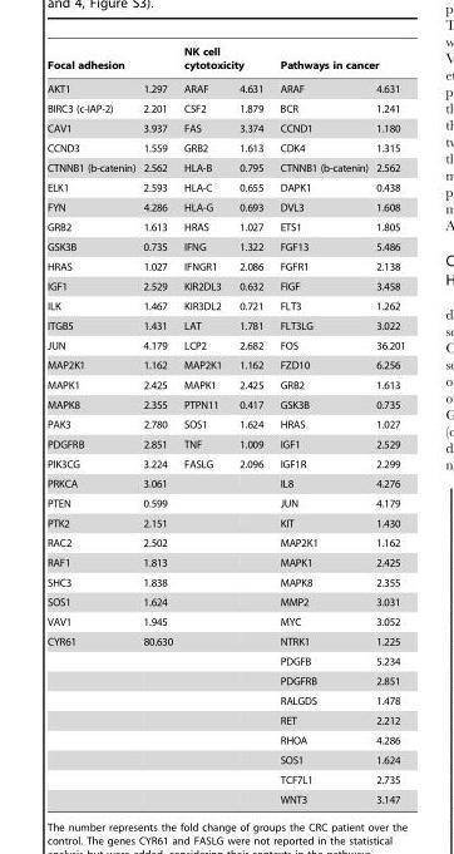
<table><thead><tr><td colspan="2">Focal adhesion</td><td colspan="2">NK cell cytotoxicity</td><td colspan="2">Pathways in cancer</td></tr><tr><td>AKT1</td><td>1.297</td><td>ARAF</td><td>4.631</td><td>ARAF</td><td>4.631</td></tr></thead><tbody><tr><td>BIRC3 (c-IAP-2)</td><td>2.201</td><td>CSF2</td><td>1.879</td><td>BCR</td><td>1.241</td></tr><tr><td>CAV1</td><td>3.937</td><td>FAS</td><td>3.374</td><td>CCND1</td><td>1.180</td></tr><tr><td>CCND3</td><td>1.559</td><td>GRB2</td><td>1.613</td><td>CDK4</td><td>1.315</td></tr><tr><td>CTNNB1 (b-catenin)</td><td>2.562</td><td>HLA-B</td><td>0.795</td><td>CTNNB1 (b-catenin)</td><td>2.562</td></tr><tr><td>ELK1</td><td>2.593</td><td>HLA-C</td><td>0.655</td><td>DAPK1</td><td>0.438</td></tr><tr><td>FYN</td><td>4.286</td><td>HLA-G</td><td>0.693</td><td>DVL3</td><td>1.608</td></tr><tr><td>GRB2</td><td>1.613</td><td>HRAS</td><td>1.027</td><td>ETS1</td><td>1.805</td></tr><tr><td>GSK3B</td><td>0.735</td><td>IFNG</td><td>1.322</td><td>FGF13</td><td>5.486</td></tr><tr><td>HRAS</td><td>1.027</td><td>IFNGR1</td><td>2.086</td><td>FGFR1</td><td>2.138</td></tr><tr><td>IGF1</td><td>2.529</td><td>KIR2DL3</td><td>0.632</td><td>FIGF</td><td>3.458</td></tr><tr><td>ILK</td><td>1.467</td><td>KIR3DL2</td><td>0.721</td><td>FLT3</td><td>1.262</td></tr><tr><td>ITGB5</td><td>1.431</td><td>LAT</td><td>1.781</td><td>FLT3LG</td><td>3.022</td></tr><tr><td>JUN</td><td>4.179</td><td>LCP2</td><td>2.682</td><td>FOS</td><td>36.201</td></tr><tr><td>MAP2K1</td><td>1.162</td><td>MAP2K1</td><td>1.162</td><td>FZD10</td><td>6.256</td></tr><tr><td>MAPK1</td><td>2.425</td><td>MAPK1</td><td>2.425</td><td>GRB2</td><td>1.613</td></tr><tr><td>MAPK8</td><td>2.355</td><td>PTPN11</td><td>0.417</td><td>GSK3B</td><td>0.735</td></tr><tr><td>PAK3</td><td>2.780</td><td>SOS1</td><td>1.624</td><td>HRAS</td><td>1.027</td></tr><tr><td>PDGFRB</td><td>2.851</td><td>TNF</td><td>1.009</td><td>IGF1</td><td>2.529</td></tr><tr><td>PIK3CG</td><td>3.224</td><td>FASLG</td><td>2.096</td><td>IGF1R</td><td>2.299</td></tr><tr><td>PRKCA</td><td>3.061</td><td></td><td></td><td>IL8</td><td>4.276</td></tr><tr><td>PTEN</td><td>0.599</td><td></td><td></td><td>JUN</td><td>4.179</td></tr><tr><td>PTK2</td><td>2.151</td><td></td><td></td><td>KIT</td><td>1.430</td></tr><tr><td>RAC2</td><td>2.502</td><td></td><td></td><td>MAP2K1</td><td>1.162</td></tr><tr><td>RAF1</td><td>1.813</td><td></td><td></td><td>MAPK1</td><td>2.425</td></tr><tr><td>SHC3</td><td>1.838</td><td></td><td></td><td>MAPK8</td><td>2.355</td></tr><tr><td>SOS1</td><td>1.624</td><td></td><td></td><td>MMP2</td><td>3.031</td></tr><tr><td>VAV1</td><td>1.945</td><td></td><td></td><td>MYC</td><td>3.052</td></tr><tr><td rowspan="9">CYR61</td><td>80.630</td><td></td><td></td><td>NTRK1</td><td>1.225</td></tr><tr><td></td><td></td><td></td><td>PDGFB</td><td>5.234</td></tr><tr><td></td><td></td><td></td><td>PDGFRB</td><td>2.851</td></tr><tr><td></td><td></td><td></td><td>RALGDS</td><td>1.478</td></tr><tr><td></td><td></td><td></td><td>RET</td><td>2.212</td></tr><tr><td></td><td></td><td></td><td>RHOA</td><td>4.286</td></tr><tr><td></td><td></td><td></td><td>SOS1</td><td>1.624</td></tr><tr><td></td><td></td><td></td><td>TCF7L1</td><td>2.735</td></tr><tr><td></td><td></td><td></td><td>WNT3</td><td>3.147</td></tr></tbody></table>